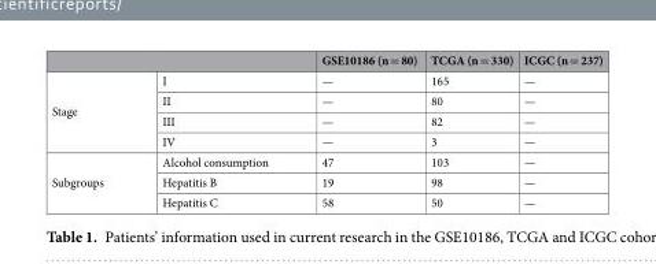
<table><thead><tr><td></td><td></td><td>GSE10186 (n = 80)</td><td>TCGA (n = 330)</td><td>ICGC (n = 237)</td></tr></thead><tbody><tr><td rowspan="4">Stage</td><td>I</td><td>—</td><td>165</td><td>—</td></tr><tr><td>II</td><td>—</td><td>80</td><td>—</td></tr><tr><td>III</td><td>—</td><td>82</td><td>—</td></tr><tr><td>IV</td><td>—</td><td>3</td><td>—</td></tr><tr><td rowspan="3">Subgroups</td><td>Alcohol consumption</td><td>47</td><td>103</td><td>—</td></tr><tr><td>Hepatitis B</td><td>19</td><td>98</td><td>—</td></tr><tr><td>Hepatitis C</td><td>58</td><td>50</td><td>—</td></tr></tbody></table>